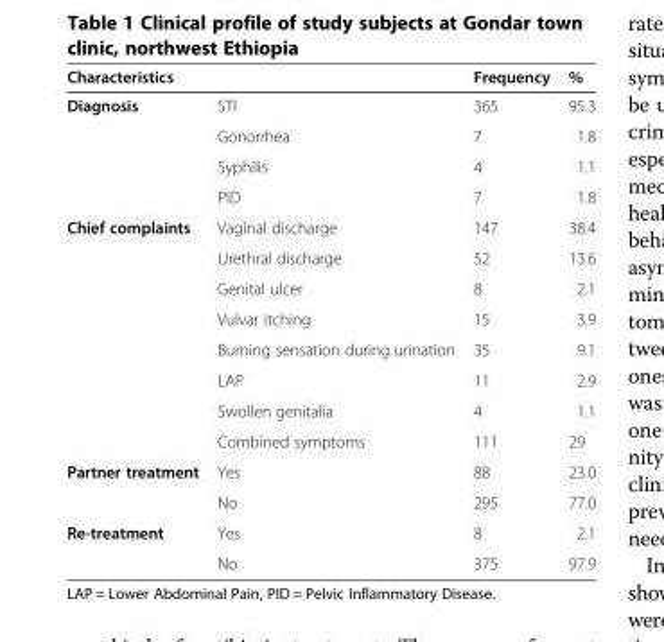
<table><thead><tr><td colspan="2">Characteristics</td><td rowspan="2">Frequency 365</td><td rowspan="2">% 95.3</td></tr><tr><td>Diagnosis</td><td>STI</td></tr></thead><tbody><tr><td></td><td>Gonorrhea</td><td>7</td><td>1.8</td></tr><tr><td></td><td>Syphilis</td><td>4</td><td>1.1</td></tr><tr><td></td><td>PID</td><td>7</td><td>1.8</td></tr><tr><td rowspan="8">Chief complaints</td><td>Vaginal discharge</td><td>147</td><td>38.4</td></tr><tr><td>Urethral discharge</td><td>52</td><td>13.6</td></tr><tr><td>Genital ulcer</td><td>8</td><td>2.1</td></tr><tr><td>Vulvar itching</td><td>15</td><td>3.9</td></tr><tr><td>Burning sensation during urination</td><td>35</td><td>9.1</td></tr><tr><td>LAP</td><td>11</td><td>2.9</td></tr><tr><td>Swollen genitalia</td><td>4</td><td>1.1</td></tr><tr><td>Combined symptoms</td><td>111</td><td>29</td></tr><tr><td rowspan="2">Partner treatment</td><td>Yes</td><td>88</td><td>23.0</td></tr><tr><td>No</td><td>295</td><td>77.0</td></tr><tr><td rowspan="2">Re-treatment</td><td>Yes</td><td>8</td><td>2.1</td></tr><tr><td>No</td><td>375</td><td>97.9</td></tr></tbody></table>